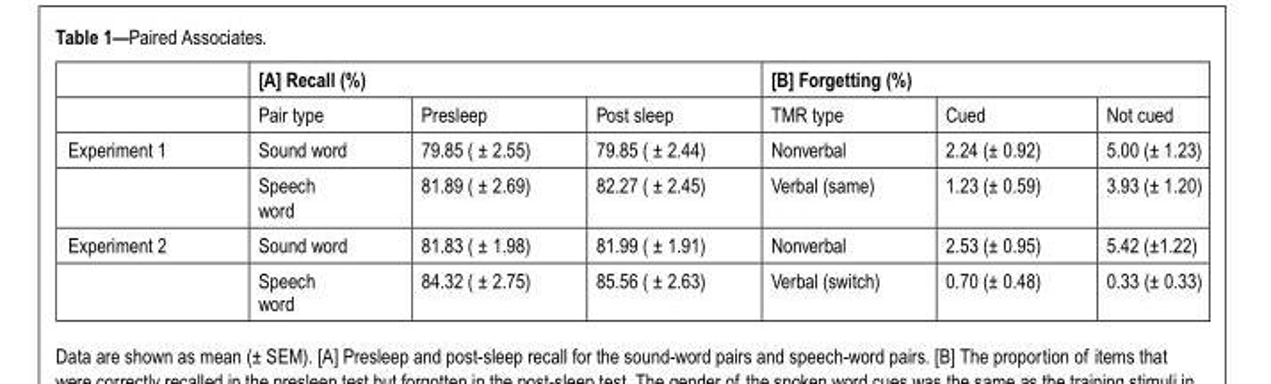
<table><thead><tr><td rowspan="2"></td><td colspan="3">[A] Recall (%)</td><td colspan="3">[B] Forgetting (%)</td></tr><tr><td>Pair type</td><td>Presleep</td><td>Post sleep</td><td>TMR type</td><td>Cued</td><td>Not cued</td></tr></thead><tbody><tr><td rowspan="2">Experiment 1</td><td>Sound word</td><td>79.85 ( ± 2.55)</td><td>79.85 ( ± 2.44)</td><td>Nonverbal</td><td>2.24 (± 0.92)</td><td>5.00 (± 1.23)</td></tr><tr><td>Speech word</td><td>81.89 ( ± 2.69)</td><td>82.27 ( ± 2.45)</td><td>Verbal (same)</td><td>1.23 (± 0.59)</td><td>3.93 (± 1.20)</td></tr><tr><td rowspan="2">Experiment 2</td><td>Sound word</td><td>81.83 ( ± 1.98)</td><td>81.99 ( ± 1.91)</td><td>Nonverbal</td><td>2.53 (± 0.95)</td><td>5.42 (±1.22)</td></tr><tr><td>Speech word</td><td>84.32 ( ± 2.75)</td><td>85.56 ( ± 2.63)</td><td>Verbal (switch)</td><td>0.70 (± 0.48)</td><td>0.33 (± 0.33)</td></tr></tbody></table>